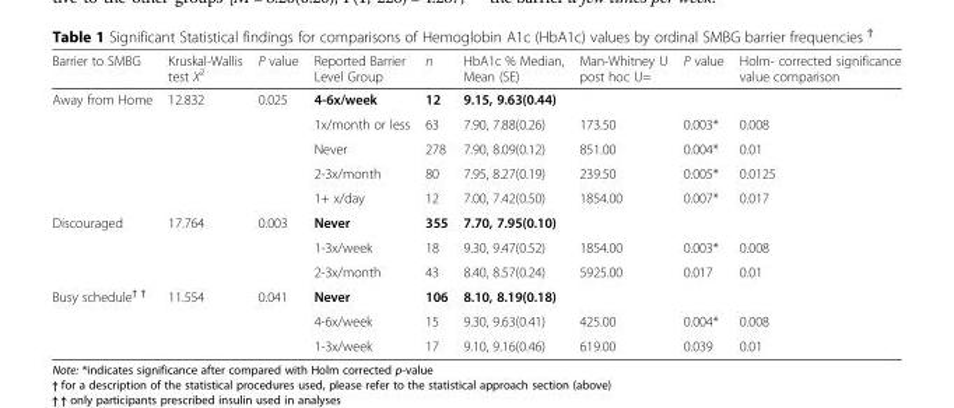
<table><thead><tr><td>Barrier to SMBG</td><td>Kruskal-Wallis test X<sup>2</sup></td><td>P value</td><td>Reported Barrier Level Group</td><td>n</td><td>HbA1c % Median, Mean (SE)</td><td>Man-Whitney U post hoc U=</td><td>P value</td><td>Holm- corrected significance value comparison</td></tr></thead><tbody><tr><td rowspan="5">Away from Home</td><td rowspan="5">12.832</td><td rowspan="5">0.025</td><td>4-6x/week</td><td>12</td><td>9.15, 9.63(0.44)</td><td></td><td></td><td></td></tr><tr><td>1x/month or less</td><td>63</td><td>7.90, 7.88(0.26)</td><td>173.50</td><td>0.003*</td><td>0.008</td></tr><tr><td>Never</td><td>278</td><td>7.90, 8.09(0.12)</td><td>851.00</td><td>0.004*</td><td>0.01</td></tr><tr><td>2-3x/month</td><td>80</td><td>7.95, 8.27(0.19)</td><td>239.50</td><td>0.005*</td><td>0.0125</td></tr><tr><td>1+ x/day</td><td>12</td><td>7.00, 7.42(0.50)</td><td>1854.00</td><td>0.007*</td><td>0.017</td></tr><tr><td rowspan="3">Discouraged</td><td rowspan="3">17.764</td><td rowspan="3">0.003</td><td>Never</td><td>355</td><td>7.70, 7.95(0.10)</td><td></td><td></td><td></td></tr><tr><td>1-3x/week</td><td>18</td><td>9.30, 9.47(0.52)</td><td>1854.00</td><td>0.003*</td><td>0.008</td></tr><tr><td>2-3x/month</td><td>43</td><td>8.40, 8.57(0.24)</td><td>5925.00</td><td>0.017</td><td>0.01</td></tr><tr><td rowspan="3">Busy schedule<sup>ϯ ϯ</sup></td><td rowspan="3">11.554</td><td rowspan="3">0.041</td><td>Never</td><td>106</td><td>8.10, 8.19(0.18)</td><td></td><td></td><td></td></tr><tr><td>4-6x/week</td><td>15</td><td>9.30, 9.63(0.41)</td><td>425.00</td><td>0.004*</td><td>0.008</td></tr><tr><td>1-3x/week</td><td>17</td><td>9.10, 9.16(0.46)</td><td>619.00</td><td>0.039</td><td>0.01</td></tr></tbody></table>